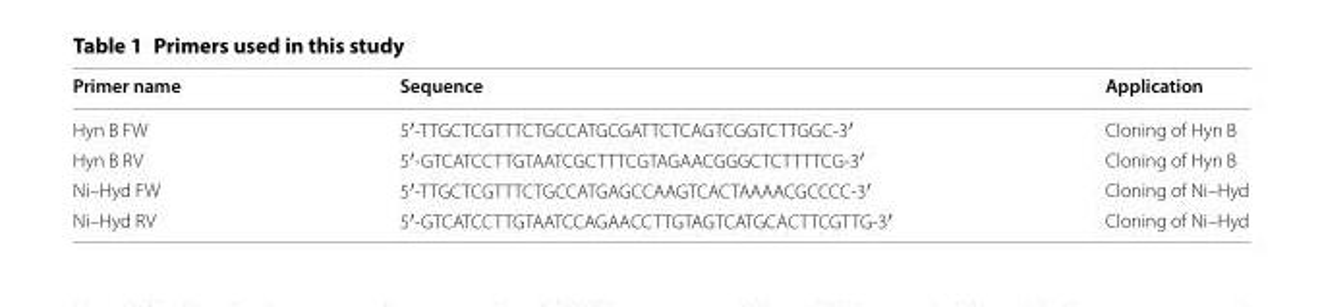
<table><thead><tr><td>Primer name</td><td>Sequence</td><td>Application</td></tr></thead><tbody><tr><td>Hyn B FW</td><td>5′-TTGCTCGTTTCTGCCATGCGATTCTCAGTCGGTCTTGGC-3′</td><td>Cloning of Hyn B</td></tr><tr><td>Hyn B RV</td><td>5′-GTCATCCTTGTAATCGCTTTCGTAGAACGGGCTCTTTTCG-3′</td><td>Cloning of Hyn B</td></tr><tr><td>Ni–Hyd FW</td><td>5′-TTGCTCGTTTCTGCCATGAGCCAAGTCACTAAAACGCCCC-3′</td><td>Cloning of Ni–Hyd</td></tr><tr><td>Ni–Hyd RV</td><td>5′-GTCATCCTTGTAATCCAGAACCTTGTAGTCATGCACTTCGTTG-3′</td><td>Cloning of Ni–Hyd</td></tr></tbody></table>